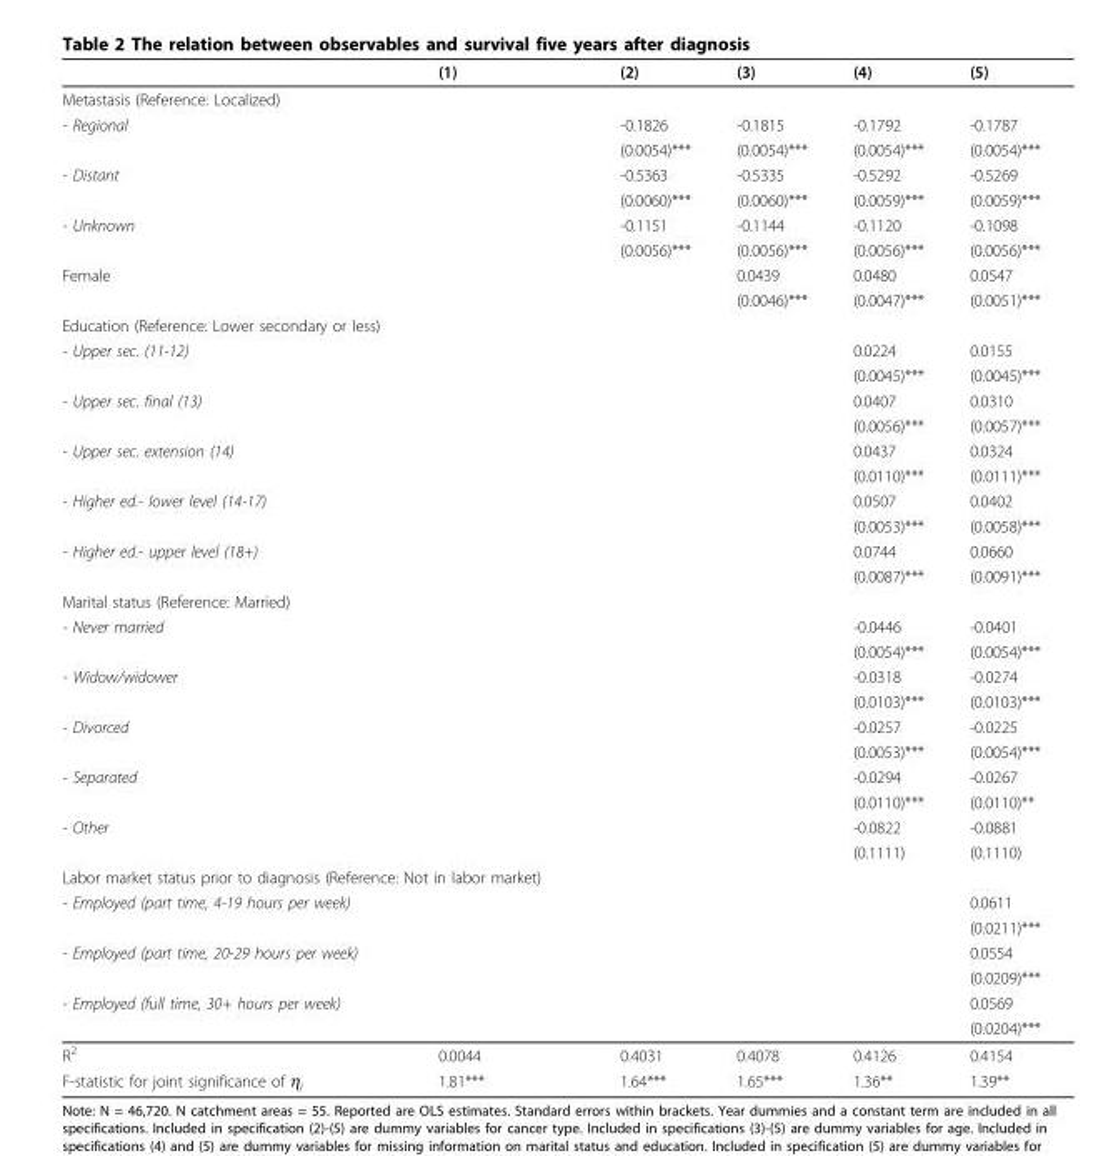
<table><thead><tr><td></td><td>(1)</td><td>(2)</td><td>(3)</td><td>(4)</td><td>(5)</td></tr></thead><tbody><tr><td colspan="6">Metastasis (Reference: Localized)</td></tr><tr><td rowspan="2">- Regional</td><td></td><td>-0.1826</td><td>-0.1815</td><td>-0.1792</td><td>-0.1787</td></tr><tr><td></td><td>(0.0054)***</td><td>(0.0054)***</td><td>(0.0054)***</td><td>(0.0054)***</td></tr><tr><td rowspan="2">- Distant</td><td></td><td>-0.5363</td><td>-0.5335</td><td>-0.5292</td><td>-0.5269</td></tr><tr><td></td><td>(0.0060)***</td><td>(0.0060)***</td><td>(0.0059)***</td><td>(0.0059)***</td></tr><tr><td rowspan="2">- Unknown</td><td></td><td>-0.1151</td><td>-0.1144</td><td>-0.1120</td><td>-0.1098</td></tr><tr><td></td><td>(0.0056)***</td><td>(0.0056)***</td><td>(0.0056)***</td><td>(0.0056)***</td></tr><tr><td rowspan="2">Female</td><td></td><td></td><td>0.0439</td><td>0.0480</td><td>0.0547</td></tr><tr><td></td><td></td><td>(0.0046)***</td><td>(0.0047)***</td><td>(0.0051)***</td></tr><tr><td colspan="6">Education (Reference: Lower secondary or less)</td></tr><tr><td rowspan="2">- Upper sec. (11-12)</td><td></td><td></td><td></td><td>0.0224</td><td>0.0155</td></tr><tr><td></td><td></td><td></td><td>(0.0045)***</td><td>(0.0045)***</td></tr><tr><td rowspan="2">- Upper sec. final (13)</td><td></td><td></td><td></td><td>0.0407</td><td>0.0310</td></tr><tr><td></td><td></td><td></td><td>(0.0056)***</td><td>(0.0057)***</td></tr><tr><td colspan="2">- Upper sec. extension (14)</td><td></td><td></td><td>0.0437</td><td>0.0324</td></tr><tr><td></td><td></td><td></td><td></td><td>(0.0110)***</td><td>(0.0111)***</td></tr><tr><td colspan="2">- Higher ed.- lower level (14-17)</td><td></td><td></td><td>0.0507</td><td>0.0402</td></tr><tr><td></td><td></td><td></td><td></td><td>(0.0053)***</td><td>(0.0058)***</td></tr><tr><td colspan="2">- Higher ed.- upper level (18+)</td><td></td><td></td><td>0.0744</td><td>0.0660</td></tr><tr><td></td><td></td><td></td><td></td><td>(0.0087)***</td><td>(0.0091)***</td></tr><tr><td colspan="6">Marital status (Reference: Married)</td></tr><tr><td rowspan="2">- Never married</td><td></td><td></td><td></td><td>-0.0446</td><td>-0.0401</td></tr><tr><td></td><td></td><td></td><td>(0.0054)***</td><td>(0.0054)***</td></tr><tr><td rowspan="2">- Widow/widower</td><td></td><td></td><td></td><td>-0.0318</td><td>-0.0274</td></tr><tr><td></td><td></td><td></td><td>(0.0103)***</td><td>(0.0103)***</td></tr><tr><td rowspan="2">- Divorced</td><td></td><td></td><td></td><td>-0.0257</td><td>-0.0225</td></tr><tr><td></td><td></td><td></td><td>(0.0053)***</td><td>(0.0054)***</td></tr><tr><td rowspan="2">- Separated</td><td></td><td></td><td></td><td>-0.0294</td><td>-0.0267</td></tr><tr><td></td><td></td><td></td><td>(0.0110)***</td><td>(0.0110)**</td></tr><tr><td rowspan="2">- Other</td><td></td><td></td><td></td><td>-0.0822</td><td>-0.0881</td></tr><tr><td></td><td></td><td></td><td>(0.1111)</td><td>(0.1110)</td></tr><tr><td colspan="6">Labor market status prior to diagnosis (Reference: Not in labor market)</td></tr><tr><td colspan="2">- Employed (part time, 4-19 hours per week)</td><td></td><td></td><td></td><td>0.0611</td></tr><tr><td></td><td></td><td></td><td></td><td></td><td>(0.0211)***</td></tr><tr><td colspan="2">- Employed (part time, 20-29 hours per week)</td><td></td><td></td><td></td><td>0.0554</td></tr><tr><td></td><td></td><td></td><td></td><td></td><td>(0.0209)***</td></tr><tr><td colspan="2">- Employed (full time, 30+ hours per week)</td><td></td><td></td><td></td><td>0.0569</td></tr><tr><td></td><td></td><td></td><td></td><td></td><td>(0.0204)***</td></tr><tr><td>R<sup>2</sup></td><td>0.0044</td><td>0.4031</td><td>0.4078</td><td>0.4126</td><td>0.4154</td></tr><tr><td>F-statistic for joint significance of η<sub>j</sub></td><td>1.81***</td><td>1.64***</td><td>1.65***</td><td>1.36**</td><td>1.39**</td></tr></tbody></table>